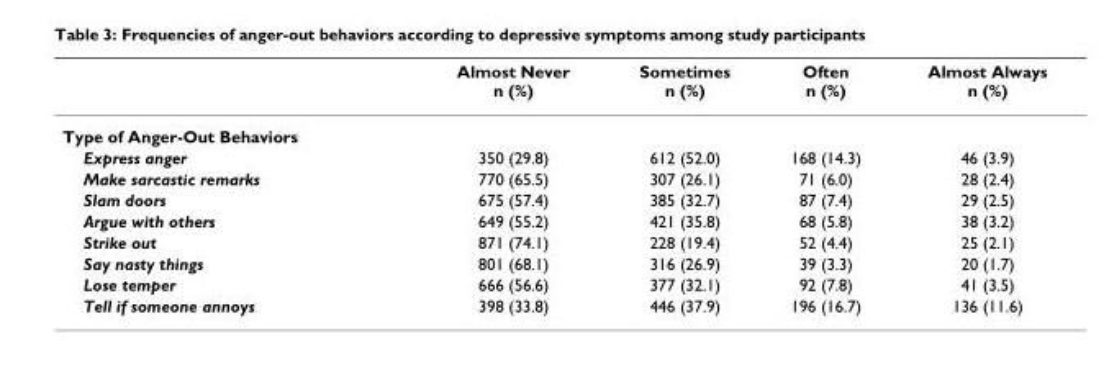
<table><thead><tr><td></td><td>Almost Never n (%)</td><td>Sometimes n (%)</td><td>Often n (%)</td><td>Almost Always n (%)</td></tr></thead><tbody><tr><td colspan="5">Type of Anger-Out Behaviors</td></tr><tr><td>Express anger</td><td>350 (29.8)</td><td>612 (52.0)</td><td>168 (14.3)</td><td>46 (3.9)</td></tr><tr><td>Make sarcastic remarks</td><td>770 (65.5)</td><td>307 (26.1)</td><td>71 (6.0)</td><td>28 (2.4)</td></tr><tr><td>Slam doors</td><td>675 (57.4)</td><td>385 (32.7)</td><td>87 (7.4)</td><td>29 (2.5)</td></tr><tr><td>Argue with others</td><td>649 (55.2)</td><td>421 (35.8)</td><td>68 (5.8)</td><td>38 (3.2)</td></tr><tr><td>Strike out</td><td>871 (74.1)</td><td>228 (19.4)</td><td>52 (4.4)</td><td>25 (2.1)</td></tr><tr><td>Say nasty things</td><td>801 (68.1)</td><td>316 (26.9)</td><td>39 (3.3)</td><td>20 (1.7)</td></tr><tr><td>Lose temper</td><td>666 (56.6)</td><td>377 (32.1)</td><td>92 (7.8)</td><td>41 (3.5)</td></tr><tr><td>Tell if someone annoys</td><td>398 (33.8)</td><td>446 (37.9)</td><td>196 (16.7)</td><td>136 (11.6)</td></tr></tbody></table>